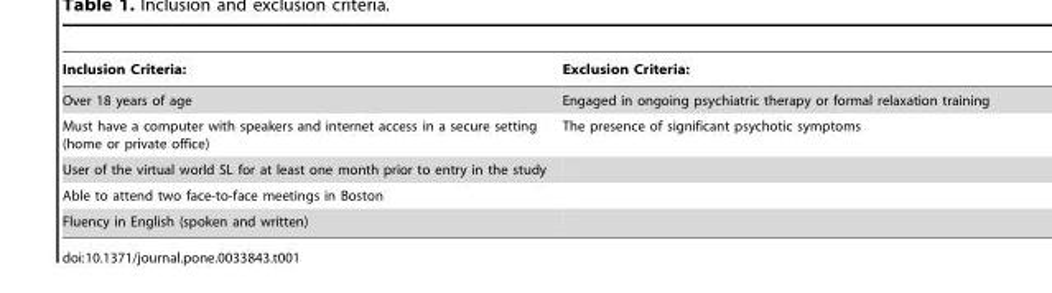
<table><thead><tr><td>Inclusion Criteria:</td><td>Exclusion Criteria:</td></tr></thead><tbody><tr><td>Over 18 years of age</td><td>Engaged in ongoing psychiatric therapy or formal relaxation training</td></tr><tr><td>Must have a computer with speakers and internet access in a secure setting (home or private office)</td><td>The presence of significant psychotic symptoms</td></tr><tr><td colspan="2">User of the virtual world SL for at least one month prior to entry in the study</td></tr><tr><td colspan="2">Able to attend two face-to-face meetings in Boston</td></tr><tr><td>Fluency in English (spoken and written)</td><td></td></tr></tbody></table>